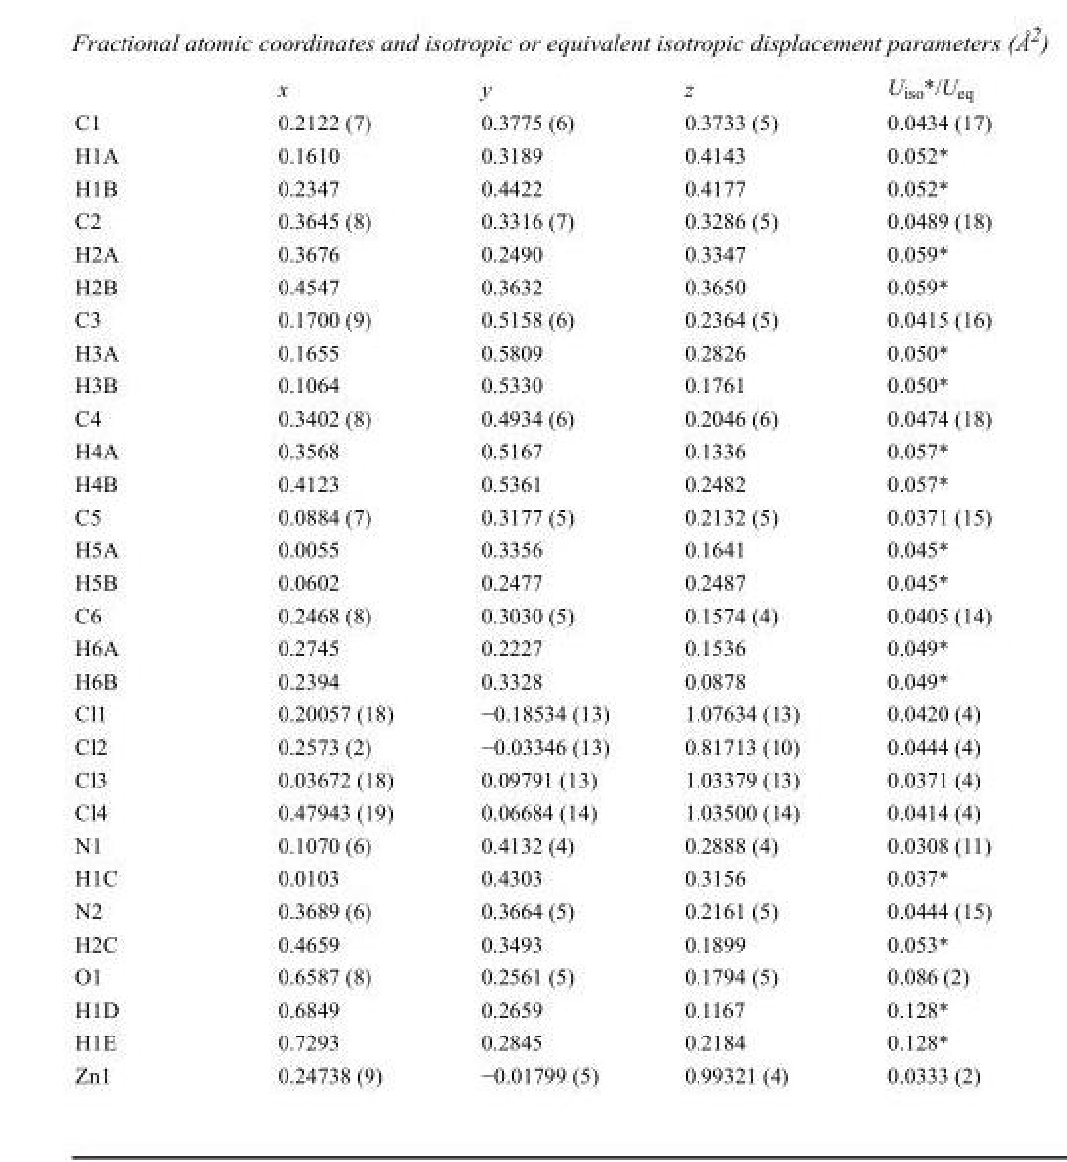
<table><thead><tr><td></td><td>x</td><td>y</td><td>z</td><td>U<sub>iso</sub>*/U<sub>eq</sub></td></tr></thead><tbody><tr><td>C1</td><td>0.2122 (7)</td><td>0.3775 (6)</td><td>0.3733 (5)</td><td>0.0434 (17)</td></tr><tr><td>H1A</td><td>0.1610</td><td>0.3189</td><td>0.4143</td><td>0.052*</td></tr><tr><td>H1B</td><td>0.2347</td><td>0.4422</td><td>0.4177</td><td>0.052*</td></tr><tr><td>C2</td><td>0.3645 (8)</td><td>0.3316 (7)</td><td>0.3286 (5)</td><td>0.0489 (18)</td></tr><tr><td>H2A</td><td>0.3676</td><td>0.2490</td><td>0.3347</td><td>0.059*</td></tr><tr><td>H2B</td><td>0.4547</td><td>0.3632</td><td>0.3650</td><td>0.059*</td></tr><tr><td>C3</td><td>0.1700 (9)</td><td>0.5158 (6)</td><td>0.2364 (5)</td><td>0.0415 (16)</td></tr><tr><td>H3A</td><td>0.1655</td><td>0.5809</td><td>0.2826</td><td>0.050*</td></tr><tr><td>H3B</td><td>0.1064</td><td>0.5330</td><td>0.1761</td><td>0.050*</td></tr><tr><td>C4</td><td>0.3402 (8)</td><td>0.4934 (6)</td><td>0.2046 (6)</td><td>0.0474 (18)</td></tr><tr><td>H4A</td><td>0.3568</td><td>0.5167</td><td>0.1336</td><td>0.057*</td></tr><tr><td>H4B</td><td>0.4123</td><td>0.5361</td><td>0.2482</td><td>0.057*</td></tr><tr><td>C5</td><td>0.0884 (7)</td><td>0.3177 (5)</td><td>0.2132 (5)</td><td>0.0371 (15)</td></tr><tr><td>H5A</td><td>0.0055</td><td>0.3356</td><td>0.1641</td><td>0.045*</td></tr><tr><td>H5B</td><td>0.0602</td><td>0.2477</td><td>0.2487</td><td>0.045*</td></tr><tr><td>C6</td><td>0.2468 (8)</td><td>0.3030 (5)</td><td>0.1574 (4)</td><td>0.0405 (14)</td></tr><tr><td>H6A</td><td>0.2745</td><td>0.2227</td><td>0.1536</td><td>0.049*</td></tr><tr><td>H6B</td><td>0.2394</td><td>0.3328</td><td>0.0878</td><td>0.049*</td></tr><tr><td>Cl1</td><td>0.20057 (18)</td><td>−0.18534 (13)</td><td>1.07634 (13)</td><td>0.0420 (4)</td></tr><tr><td>Cl2</td><td>0.2573 (2)</td><td>−0.03346 (13)</td><td>0.81713 (10)</td><td>0.0444 (4)</td></tr><tr><td>Cl3</td><td>0.03672 (18)</td><td>0.09791 (13)</td><td>1.03379 (13)</td><td>0.0371 (4)</td></tr><tr><td>Cl4</td><td>0.47943 (19)</td><td>0.06684 (14)</td><td>1.03500 (14)</td><td>0.0414 (4)</td></tr><tr><td>N1</td><td>0.1070 (6)</td><td>0.4132 (4)</td><td>0.2888 (4)</td><td>0.0308 (11)</td></tr><tr><td>H1C</td><td>0.0103</td><td>0.4303</td><td>0.3156</td><td>0.037*</td></tr><tr><td>N2</td><td>0.3689 (6)</td><td>0.3664 (5)</td><td>0.2161 (5)</td><td>0.0444 (15)</td></tr><tr><td>H2C</td><td>0.4659</td><td>0.3493</td><td>0.1899</td><td>0.053*</td></tr><tr><td>O1</td><td>0.6587 (8)</td><td>0.2561 (5)</td><td>0.1794 (5)</td><td>0.086 (2)</td></tr><tr><td>H1D</td><td>0.6849</td><td>0.2659</td><td>0.1167</td><td>0.128*</td></tr><tr><td>H1E</td><td>0.7293</td><td>0.2845</td><td>0.2184</td><td>0.128*</td></tr><tr><td>Zn1</td><td>0.24738 (9)</td><td>−0.01799 (5)</td><td>0.99321 (4)</td><td>0.0333 (2)</td></tr></tbody></table>